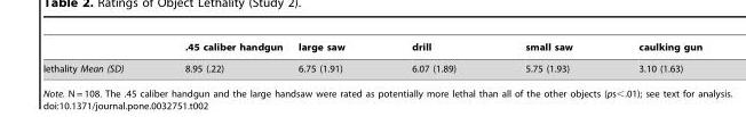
<table><thead><tr><td></td><td>.45 caliber handgun</td><td>large saw</td><td>drill</td><td>small saw</td><td>caulking gun</td></tr></thead><tbody><tr><td>lethality Mean (SD)</td><td>8.95 (.22)</td><td>6.75 (1.91)</td><td>6.07 (1.89)</td><td>5.75 (1.93)</td><td>3.10 (1.63)</td></tr></tbody></table>